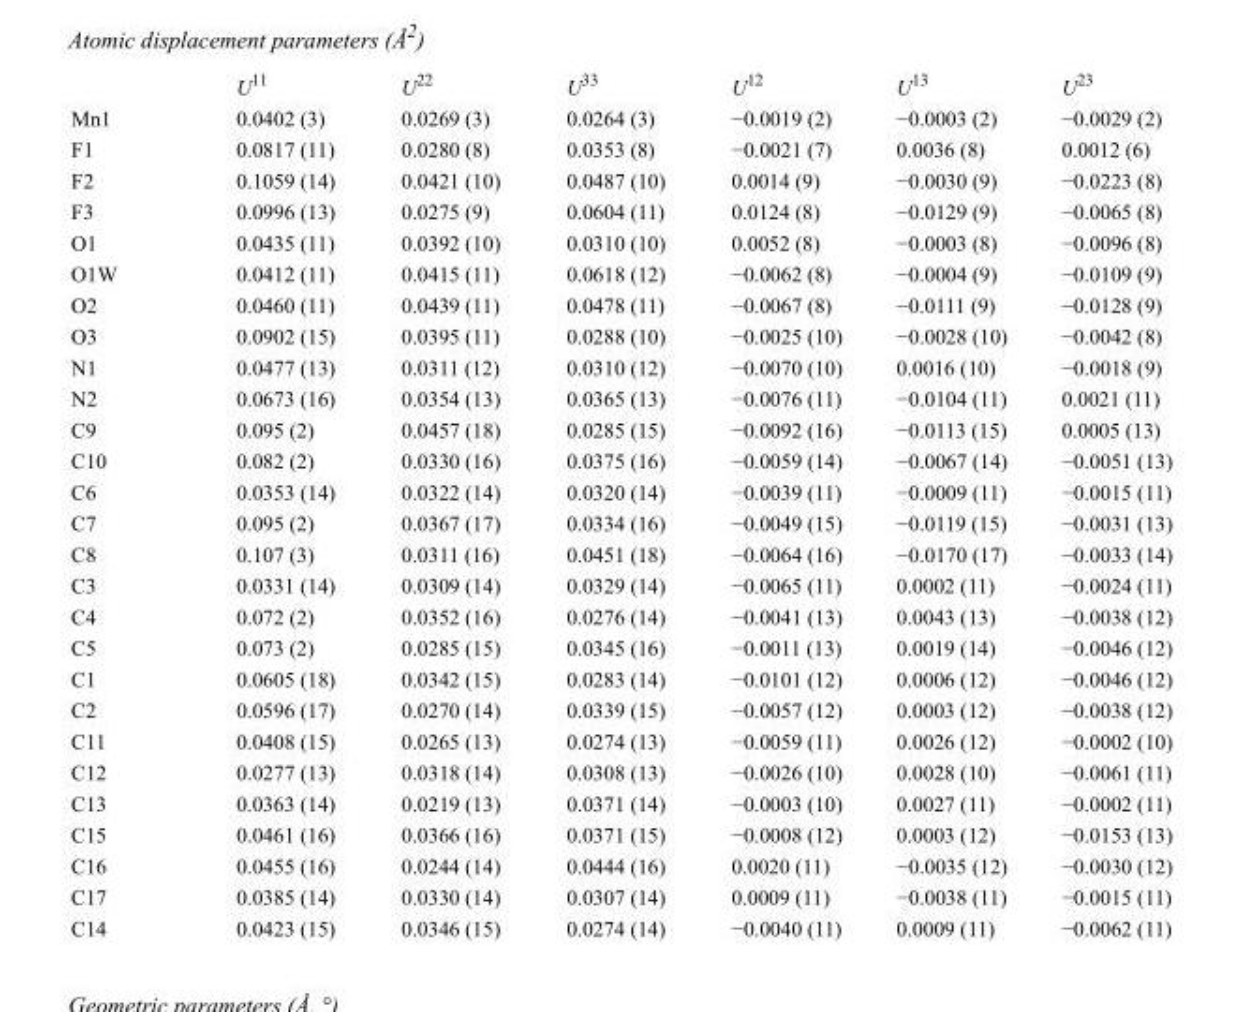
<table><thead><tr><td></td><td>U<sup>11</sup></td><td>U<sup>22</sup></td><td>U<sup>33</sup></td><td>U<sup>12</sup></td><td>U<sup>13</sup></td><td>U<sup>23</sup></td></tr></thead><tbody><tr><td>Mn1</td><td>0.0402 (3)</td><td>0.0269 (3)</td><td>0.0264 (3)</td><td>−0.0019 (2)</td><td>−0.0003 (2)</td><td>−0.0029 (2)</td></tr><tr><td>F1</td><td>0.0817 (11)</td><td>0.0280 (8)</td><td>0.0353 (8)</td><td>−0.0021 (7)</td><td>0.0036 (8)</td><td>0.0012 (6)</td></tr><tr><td>F2</td><td>0.1059 (14)</td><td>0.0421 (10)</td><td>0.0487 (10)</td><td>0.0014 (9)</td><td>−0.0030 (9)</td><td>−0.0223 (8)</td></tr><tr><td>F3</td><td>0.0996 (13)</td><td>0.0275 (9)</td><td>0.0604 (11)</td><td>0.0124 (8)</td><td>−0.0129 (9)</td><td>−0.0065 (8)</td></tr><tr><td>O1</td><td>0.0435 (11)</td><td>0.0392 (10)</td><td>0.0310 (10)</td><td>0.0052 (8)</td><td>−0.0003 (8)</td><td>−0.0096 (8)</td></tr><tr><td>O1W</td><td>0.0412 (11)</td><td>0.0415 (11)</td><td>0.0618 (12)</td><td>−0.0062 (8)</td><td>−0.0004 (9)</td><td>−0.0109 (9)</td></tr><tr><td>O2</td><td>0.0460 (11)</td><td>0.0439 (11)</td><td>0.0478 (11)</td><td>−0.0067 (8)</td><td>−0.0111 (9)</td><td>−0.0128 (9)</td></tr><tr><td>O3</td><td>0.0902 (15)</td><td>0.0395 (11)</td><td>0.0288 (10)</td><td>−0.0025 (10)</td><td>−0.0028 (10)</td><td>−0.0042 (8)</td></tr><tr><td>N1</td><td>0.0477 (13)</td><td>0.0311 (12)</td><td>0.0310 (12)</td><td>−0.0070 (10)</td><td>0.0016 (10)</td><td>−0.0018 (9)</td></tr><tr><td>N2</td><td>0.0673 (16)</td><td>0.0354 (13)</td><td>0.0365 (13)</td><td>−0.0076 (11)</td><td>−0.0104 (11)</td><td>0.0021 (11)</td></tr><tr><td>C9</td><td>0.095 (2)</td><td>0.0457 (18)</td><td>0.0285 (15)</td><td>−0.0092 (16)</td><td>−0.0113 (15)</td><td>0.0005 (13)</td></tr><tr><td>C10</td><td>0.082 (2)</td><td>0.0330 (16)</td><td>0.0375 (16)</td><td>−0.0059 (14)</td><td>−0.0067 (14)</td><td>−0.0051 (13)</td></tr><tr><td>C6</td><td>0.0353 (14)</td><td>0.0322 (14)</td><td>0.0320 (14)</td><td>−0.0039 (11)</td><td>−0.0009 (11)</td><td>−0.0015 (11)</td></tr><tr><td>C7</td><td>0.095 (2)</td><td>0.0367 (17)</td><td>0.0334 (16)</td><td>−0.0049 (15)</td><td>−0.0119 (15)</td><td>−0.0031 (13)</td></tr><tr><td>C8</td><td>0.107 (3)</td><td>0.0311 (16)</td><td>0.0451 (18)</td><td>−0.0064 (16)</td><td>−0.0170 (17)</td><td>−0.0033 (14)</td></tr><tr><td>C3</td><td>0.0331 (14)</td><td>0.0309 (14)</td><td>0.0329 (14)</td><td>−0.0065 (11)</td><td>0.0002 (11)</td><td>−0.0024 (11)</td></tr><tr><td>C4</td><td>0.072 (2)</td><td>0.0352 (16)</td><td>0.0276 (14)</td><td>−0.0041 (13)</td><td>0.0043 (13)</td><td>−0.0038 (12)</td></tr><tr><td>C5</td><td>0.073 (2)</td><td>0.0285 (15)</td><td>0.0345 (16)</td><td>−0.0011 (13)</td><td>0.0019 (14)</td><td>−0.0046 (12)</td></tr><tr><td>C1</td><td>0.0605 (18)</td><td>0.0342 (15)</td><td>0.0283 (14)</td><td>−0.0101 (12)</td><td>0.0006 (12)</td><td>−0.0046 (12)</td></tr><tr><td>C2</td><td>0.0596 (17)</td><td>0.0270 (14)</td><td>0.0339 (15)</td><td>−0.0057 (12)</td><td>0.0003 (12)</td><td>−0.0038 (12)</td></tr><tr><td>C11</td><td>0.0408 (15)</td><td>0.0265 (13)</td><td>0.0274 (13)</td><td>−0.0059 (11)</td><td>0.0026 (12)</td><td>−0.0002 (10)</td></tr><tr><td>C12</td><td>0.0277 (13)</td><td>0.0318 (14)</td><td>0.0308 (13)</td><td>−0.0026 (10)</td><td>0.0028 (10)</td><td>−0.0061 (11)</td></tr><tr><td>C13</td><td>0.0363 (14)</td><td>0.0219 (13)</td><td>0.0371 (14)</td><td>−0.0003 (10)</td><td>0.0027 (11)</td><td>−0.0002 (11)</td></tr><tr><td>C15</td><td>0.0461 (16)</td><td>0.0366 (16)</td><td>0.0371 (15)</td><td>−0.0008 (12)</td><td>0.0003 (12)</td><td>−0.0153 (13)</td></tr><tr><td>C16</td><td>0.0455 (16)</td><td>0.0244 (14)</td><td>0.0444 (16)</td><td>0.0020 (11)</td><td>−0.0035 (12)</td><td>−0.0030 (12)</td></tr><tr><td>C17</td><td>0.0385 (14)</td><td>0.0330 (14)</td><td>0.0307 (14)</td><td>0.0009 (11)</td><td>−0.0038 (11)</td><td>−0.0015 (11)</td></tr><tr><td>C14</td><td>0.0423 (15)</td><td>0.0346 (15)</td><td>0.0274 (14)</td><td>−0.0040 (11)</td><td>0.0009 (11)</td><td>−0.0062 (11)</td></tr></tbody></table>